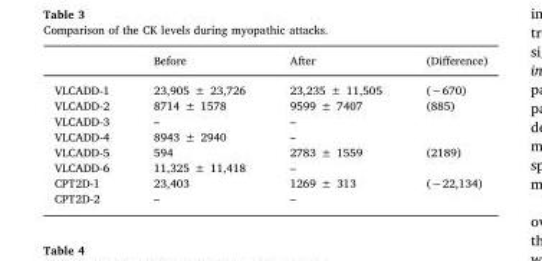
<table><thead><tr><td></td><td>Before</td><td>After</td><td>(Difference)</td></tr></thead><tbody><tr><td>VLCADD-1</td><td>23,905 ± 23,726</td><td>23,235 ± 11,505</td><td>(−670)</td></tr><tr><td>VLCADD-2</td><td>8714 ± 1578</td><td>9599 ± 7407</td><td>(885)</td></tr><tr><td>VLCADD-3</td><td>–</td><td>–</td><td></td></tr><tr><td>VLCADD-4</td><td>8943 ± 2940</td><td>–</td><td></td></tr><tr><td>VLCADD-5</td><td>594</td><td>2783 ± 1559</td><td>(2189)</td></tr><tr><td>VLCADD-6</td><td>11,325 ± 11,418</td><td>–</td><td></td></tr><tr><td>CPT2D-1</td><td>23,403</td><td>1269 ± 313</td><td>(−22,134)</td></tr><tr><td>CPT2D-2</td><td>–</td><td>–</td><td></td></tr></tbody></table>